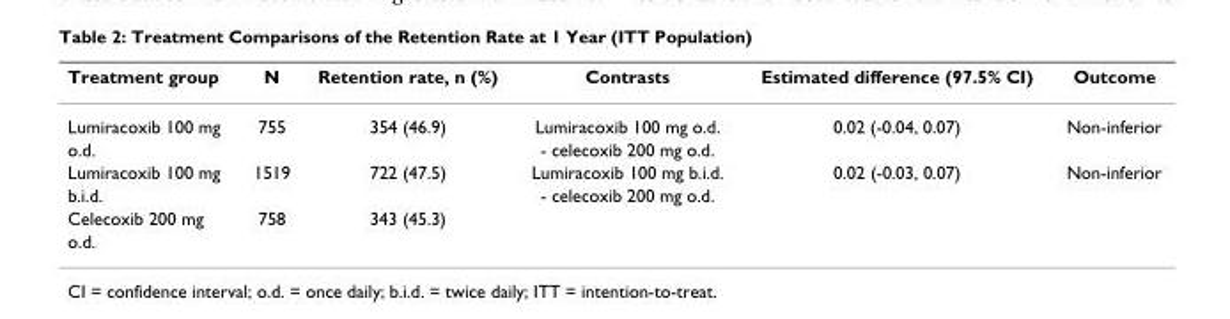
<table><thead><tr><td>Treatment group</td><td>N</td><td>Retention rate, n (%)</td><td>Contrasts</td><td>Estimated difference (97.5% CI)</td><td>Outcome</td></tr></thead><tbody><tr><td>Lumiracoxib 100 mg</td><td>755</td><td>354 (46.9)</td><td>Lumiracoxib 100 mg o.d.</td><td>0.02 (-0.04, 0.07)</td><td>Non-inferior</td></tr><tr><td>o.d.</td><td></td><td></td><td>- celecoxib 200 mg o.d.</td><td></td><td></td></tr><tr><td>Lumiracoxib 100 mg</td><td>1519</td><td>722 (47.5)</td><td>Lumiracoxib 100 mg b.i.d.</td><td>0.02 (-0.03, 0.07)</td><td>Non-inferior</td></tr><tr><td>b.i.d.</td><td></td><td></td><td>- celecoxib 200 mg o.d.</td><td></td><td></td></tr><tr><td>Celecoxib 200 mg</td><td>758</td><td>343 (45.3)</td><td></td><td></td><td></td></tr><tr><td>o.d.</td><td></td><td></td><td></td><td></td><td></td></tr></tbody></table>